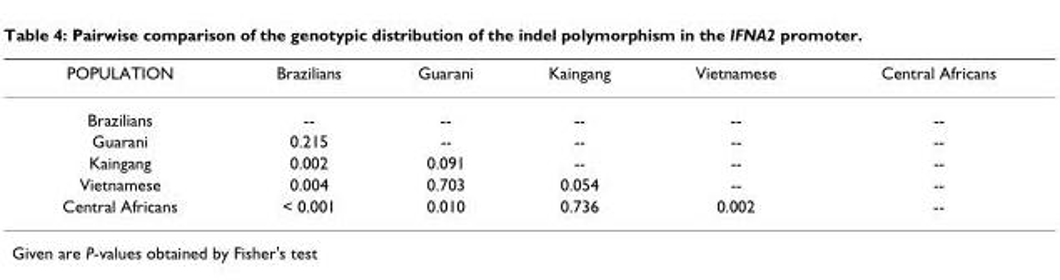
<table><thead><tr><td>POPULATION</td><td>Brazilians</td><td>Guarani</td><td>Kaingang</td><td>Vietnamese</td><td>Central Africans</td></tr></thead><tbody><tr><td>Brazilians</td><td>--</td><td>--</td><td>--</td><td>--</td><td>--</td></tr><tr><td>Guarani</td><td>0.215</td><td>--</td><td>--</td><td>--</td><td>--</td></tr><tr><td>Kaingang</td><td>0.002</td><td>0.091</td><td>--</td><td>--</td><td>--</td></tr><tr><td>Vietnamese</td><td>0.004</td><td>0.703</td><td>0.054</td><td>--</td><td>--</td></tr><tr><td>Central Africans</td><td>&lt; 0.001</td><td>0.010</td><td>0.736</td><td>0.002</td><td>--</td></tr></tbody></table>